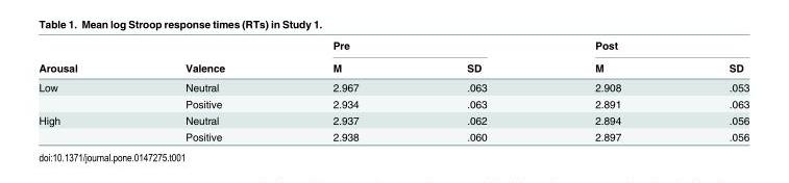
<table><thead><tr><td rowspan="2">Arousal</td><td rowspan="2">Valence</td><td colspan="2">Pre</td><td colspan="2">Post</td></tr><tr><td>M</td><td>SD</td><td>M</td><td>SD</td></tr></thead><tbody><tr><td rowspan="2">Low</td><td>Neutral</td><td>2.967</td><td>.063</td><td>2.908</td><td>.053</td></tr><tr><td>Positive</td><td>2.934</td><td>.063</td><td>2.891</td><td>.063</td></tr><tr><td rowspan="2">High</td><td>Neutral</td><td>2.937</td><td>.062</td><td>2.894</td><td>.056</td></tr><tr><td>Positive</td><td>2.938</td><td>.060</td><td>2.897</td><td>.056</td></tr></tbody></table>